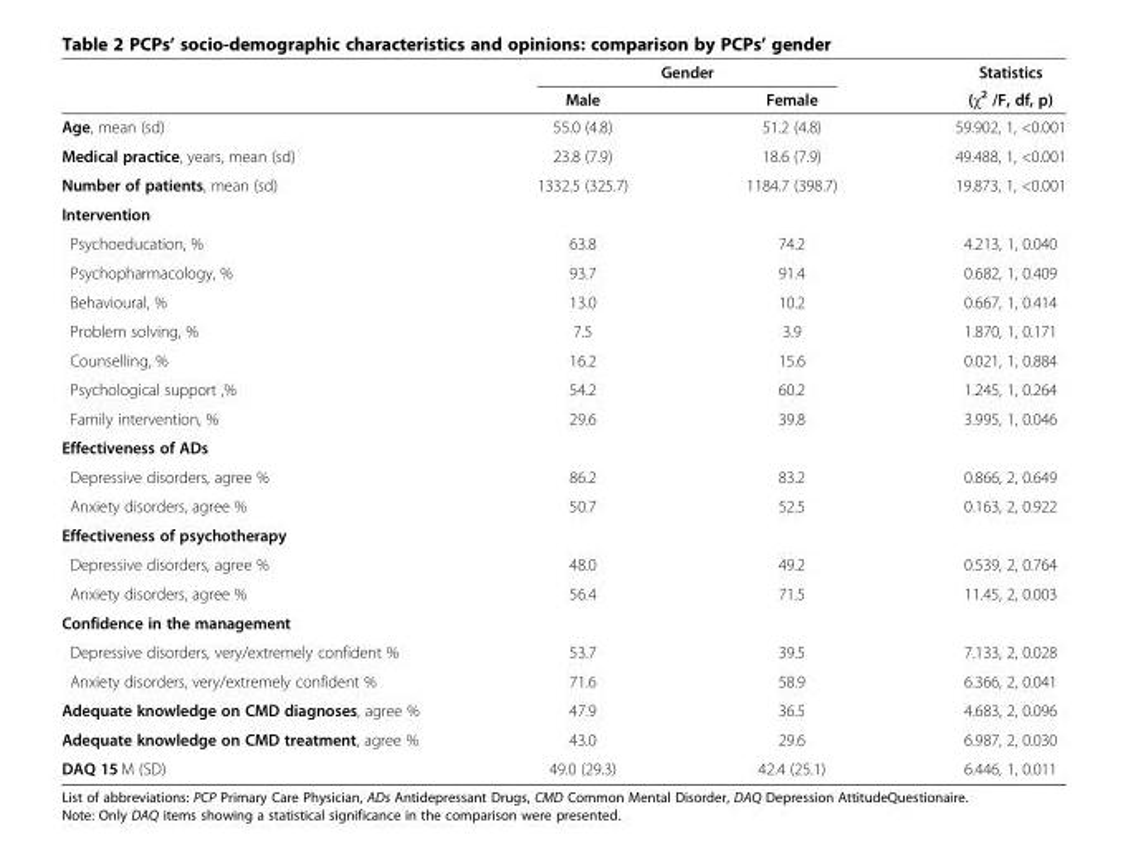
<table><thead><tr><td rowspan="2"></td><td colspan="2">Gender</td><td rowspan="2">Statistics (χ<sup>2</sup> /F, df, p)</td></tr><tr><td>Male</td><td>Female</td></tr></thead><tbody><tr><td>Age, mean (sd)</td><td>55.0 (4.8)</td><td>51.2 (4.8)</td><td>59.902, 1, &lt;0.001</td></tr><tr><td>Medical practice, years, mean (sd)</td><td>23.8 (7.9)</td><td>18.6 (7.9)</td><td>49.488, 1, &lt;0.001</td></tr><tr><td>Number of patients, mean (sd)</td><td>1332.5 (325.7)</td><td>1184.7 (398.7)</td><td>19.873, 1, &lt;0.001</td></tr><tr><td colspan="4">Intervention</td></tr><tr><td>Psychoeducation, %</td><td>63.8</td><td>74.2</td><td>4.213, 1, 0.040</td></tr><tr><td>Psychopharmacology, %</td><td>93.7</td><td>91.4</td><td>0.682, 1, 0.409</td></tr><tr><td>Behavioural, %</td><td>13.0</td><td>10.2</td><td>0.667, 1, 0.414</td></tr><tr><td>Problem solving, %</td><td>7.5</td><td>3.9</td><td>1.870, 1, 0.171</td></tr><tr><td>Counselling, %</td><td>16.2</td><td>15.6</td><td>0.021, 1, 0.884</td></tr><tr><td>Psychological support ,%</td><td>54.2</td><td>60.2</td><td>1.245, 1, 0.264</td></tr><tr><td>Family intervention, %</td><td>29.6</td><td>39.8</td><td>3.995, 1, 0.046</td></tr><tr><td colspan="4">Effectiveness of ADs</td></tr><tr><td>Depressive disorders, agree %</td><td>86.2</td><td>83.2</td><td>0.866, 2, 0.649</td></tr><tr><td>Anxiety disorders, agree %</td><td>50.7</td><td>52.5</td><td>0.163, 2, 0.922</td></tr><tr><td colspan="4">Effectiveness of psychotherapy</td></tr><tr><td>Depressive disorders, agree %</td><td>48.0</td><td>49.2</td><td>0.539, 2, 0.764</td></tr><tr><td>Anxiety disorders, agree %</td><td>56.4</td><td>71.5</td><td>11.45, 2, 0.003</td></tr><tr><td colspan="4">Confidence in the management</td></tr><tr><td>Depressive disorders, very/extremely confident %</td><td>53.7</td><td>39.5</td><td>7.133, 2, 0.028</td></tr><tr><td>Anxiety disorders, very/extremely confident %</td><td>71.6</td><td>58.9</td><td>6.366, 2, 0.041</td></tr><tr><td>Adequate knowledge on CMD diagnoses, agree %</td><td>47.9</td><td>36.5</td><td>4.683, 2, 0.096</td></tr><tr><td>Adequate knowledge on CMD treatment, agree %</td><td>43.0</td><td>29.6</td><td>6.987, 2, 0.030</td></tr><tr><td>DAQ 15 M (SD)</td><td>49.0 (29.3)</td><td>42.4 (25.1)</td><td>6.446, 1, 0.011</td></tr></tbody></table>